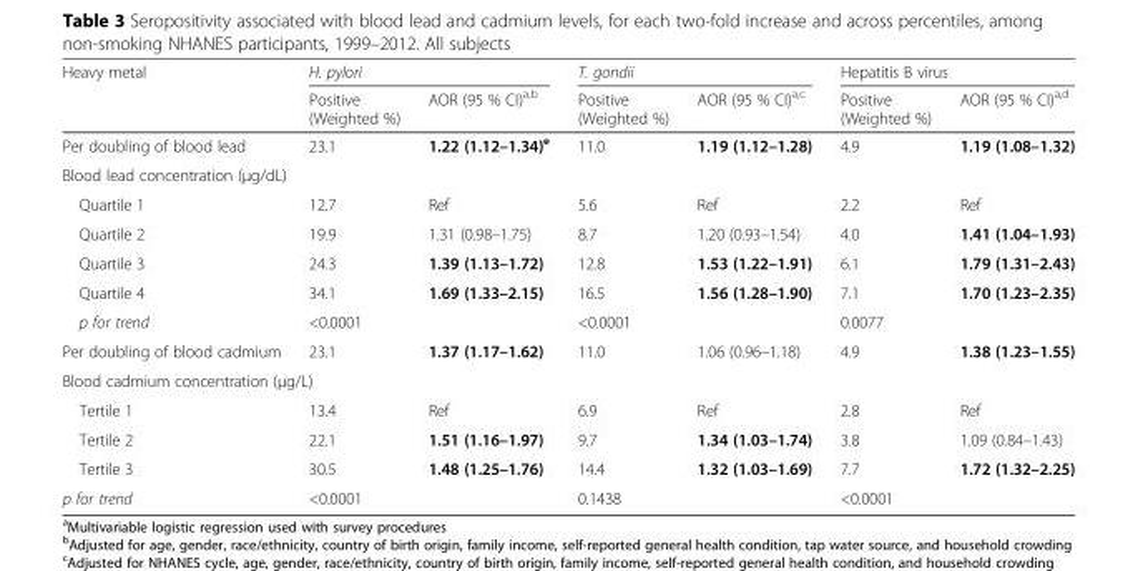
<table><thead><tr><td rowspan="2">Heavy metal</td><td colspan="2">H. pylori</td><td colspan="2">T. gondii</td><td colspan="2">Hepatitis B virus</td></tr><tr><td>Positive (Weighted %)</td><td>AOR (95 % CI)<sup>a,b</sup></td><td>Positive (Weighted %)</td><td>AOR (95 % CI)<sup>a,c</sup></td><td>Positive (Weighted %)</td><td>AOR (95 % CI)<sup>a,d</sup></td></tr></thead><tbody><tr><td>Per doubling of blood lead</td><td>23.1</td><td>1.22 (1.12–1.34)<sup>e</sup></td><td>11.0</td><td>1.19 (1.12–1.28)</td><td>4.9</td><td>1.19 (1.08–1.32)</td></tr><tr><td colspan="7">Blood lead concentration (μg/dL)</td></tr><tr><td>Quartile 1</td><td>12.7</td><td>Ref</td><td>5.6</td><td>Ref</td><td>2.2</td><td>Ref</td></tr><tr><td>Quartile 2</td><td>19.9</td><td>1.31 (0.98–1.75)</td><td>8.7</td><td>1.20 (0.93–1.54)</td><td>4.0</td><td>1.41 (1.04–1.93)</td></tr><tr><td>Quartile 3</td><td>24.3</td><td>1.39 (1.13–1.72)</td><td>12.8</td><td>1.53 (1.22–1.91)</td><td>6.1</td><td>1.79 (1.31–2.43)</td></tr><tr><td>Quartile 4</td><td>34.1</td><td>1.69 (1.33–2.15)</td><td>16.5</td><td>1.56 (1.28–1.90)</td><td>7.1</td><td>1.70 (1.23–2.35)</td></tr><tr><td>p for trend</td><td colspan="2">&lt;0.0001</td><td colspan="2">&lt;0.0001</td><td colspan="2">0.0077</td></tr><tr><td>Per doubling of blood cadmium</td><td>23.1</td><td>1.37 (1.17–1.62)</td><td>11.0</td><td>1.06 (0.96–1.18)</td><td>4.9</td><td>1.38 (1.23–1.55)</td></tr><tr><td colspan="7">Blood cadmium concentration (μg/L)</td></tr><tr><td>Tertile 1</td><td>13.4</td><td>Ref</td><td>6.9</td><td>Ref</td><td>2.8</td><td>Ref</td></tr><tr><td>Tertile 2</td><td>22.1</td><td>1.51 (1.16–1.97)</td><td>9.7</td><td>1.34 (1.03–1.74)</td><td>3.8</td><td>1.09 (0.84–1.43)</td></tr><tr><td>Tertile 3</td><td>30.5</td><td>1.48 (1.25–1.76)</td><td>14.4</td><td>1.32 (1.03–1.69)</td><td>7.7</td><td>1.72 (1.32–2.25)</td></tr><tr><td>p for trend</td><td colspan="2">&lt;0.0001</td><td colspan="2">0.1438</td><td colspan="2">&lt;0.0001</td></tr></tbody></table>